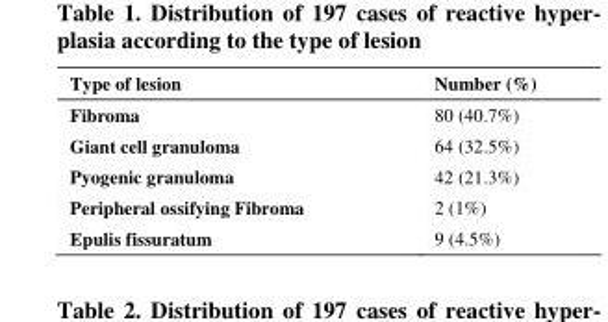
<table><tbody><tr><td>Type of lesion</td><td>Number (%)</td></tr><tr><td>Fibroma</td><td>80 (40.7%)</td></tr><tr><td>Giant cell granuloma</td><td>64 (32.5%)</td></tr><tr><td>Pyogenic granuloma</td><td>42 (21.3%)</td></tr><tr><td>Peripheral ossifying Fibroma</td><td>2 (1%)</td></tr><tr><td>Epulis fissuratum</td><td>9 (4.5%)</td></tr></tbody></table>